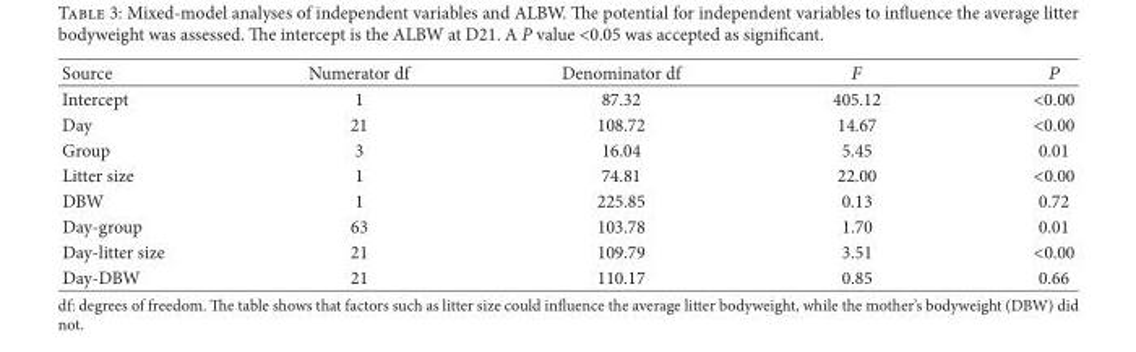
<table><thead><tr><td>Source</td><td>Numerator df</td><td>Denominator df</td><td>𝐹𝐹</td><td>𝑃𝑃</td></tr></thead><tbody><tr><td>Intercept</td><td>1</td><td>87.32</td><td>405.12</td><td>𝑃0.00</td></tr><tr><td>Day</td><td>21</td><td>108.72</td><td>14.67</td><td>𝑃0.00</td></tr><tr><td>Group</td><td>3</td><td>16.04</td><td>5.45</td><td>0.01</td></tr><tr><td>Litter size</td><td>1</td><td>74.81</td><td>22.00</td><td>𝑃0.00</td></tr><tr><td>DBW</td><td>1</td><td>225.85</td><td>0.13</td><td>0.72</td></tr><tr><td>Day-group</td><td>63</td><td>103.78</td><td>1.70</td><td>0.01</td></tr><tr><td>Day-litter size</td><td>21</td><td>109.79</td><td>3.51</td><td>𝑃0.00</td></tr><tr><td>Day-DBW</td><td>21</td><td>110.17</td><td>0.85</td><td>0.66</td></tr></tbody></table>